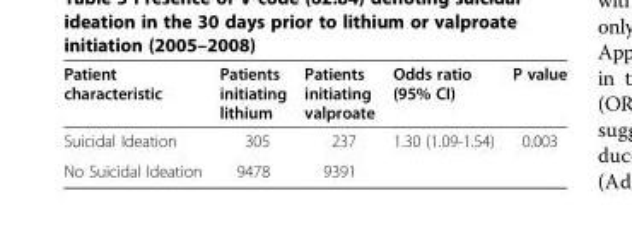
<table><thead><tr><td>Patient characteristic</td><td>Patients initiating lithium</td><td>Patients initiating valproate</td><td>Odds ratio (95% CI)</td><td>P value</td></tr></thead><tbody><tr><td>Suicidal Ideation</td><td>305</td><td>237</td><td rowspan="2">1.30 (1.09-1.54)</td><td rowspan="2">0.003</td></tr><tr><td>No Suicidal Ideation</td><td>9478</td><td>9391</td></tr></tbody></table>